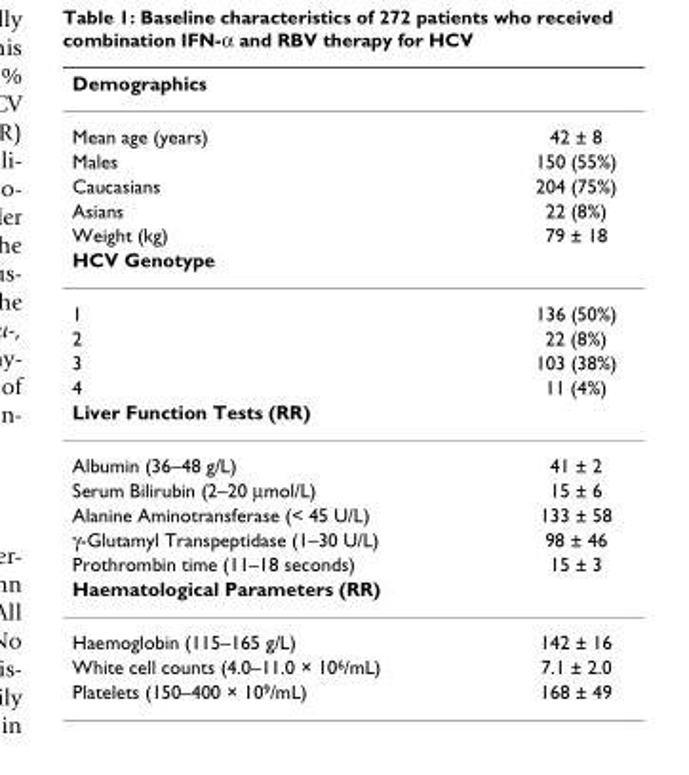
<table><thead><tr><td colspan="2">Demographics</td></tr><tr><td>Mean age (years)</td><td>42 ± 8</td></tr></thead><tbody><tr><td>Males</td><td>150 (55%)</td></tr><tr><td>Caucasians</td><td>204 (75%)</td></tr><tr><td>Asians</td><td>22 (8%)</td></tr><tr><td>Weight (kg)</td><td>79 ± 18</td></tr><tr><td colspan="2">HCV Genotype</td></tr><tr><td>1</td><td>136 (50%)</td></tr><tr><td>2</td><td>22 (8%)</td></tr><tr><td>3</td><td>103 (38%)</td></tr><tr><td>4</td><td>11 (4%)</td></tr><tr><td colspan="2">Liver Function Tests (RR)</td></tr><tr><td>Albumin (36–48 g/L)</td><td>41 ± 2</td></tr><tr><td>Serum Bilirubin (2–20 µmol/L)</td><td>15 ± 6</td></tr><tr><td>Alanine Aminotransferase (&lt; 45 U/L)</td><td>133 ± 58</td></tr><tr><td>γ-Glutamyl Transpeptidase (1–30 U/L)</td><td>98 ± 46</td></tr><tr><td>Prothrombin time (11–18 seconds)</td><td>15 ± 3</td></tr><tr><td colspan="2">Haematological Parameters (RR)</td></tr><tr><td>Haemoglobin (115–165 g/L)</td><td>142 ± 16</td></tr><tr><td>White cell counts (4.0–11.0 × 10<sup>6</sup>/mL)</td><td>7.1 ± 2.0</td></tr><tr><td>Platelets (150–400 × 10<sup>9</sup>/mL)</td><td>168 ± 49</td></tr></tbody></table>